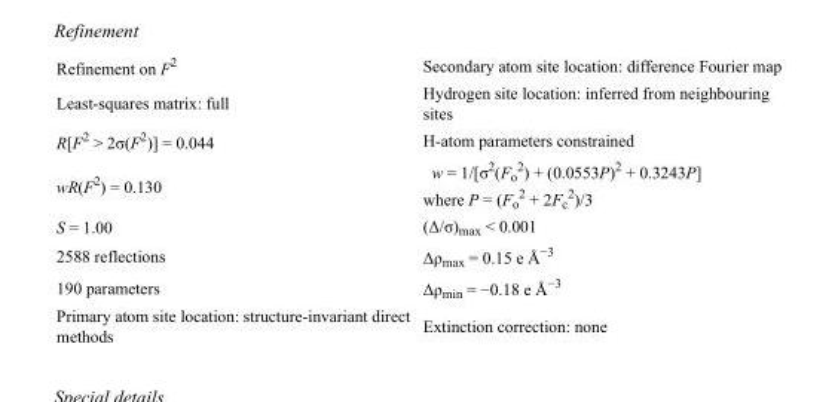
<table><tbody><tr><td>Refinement on F<sup>2</sup></td><td>Secondary atom site location: difference Fourier map</td></tr><tr><td>Least-squares matrix: full</td><td>Hydrogen site location: inferred from neighbouring sites</td></tr><tr><td>R[F<sup>2</sup> &gt; 2σ(F<sup>2</sup>)] = 0.044</td><td>H-atom parameters constrained</td></tr><tr><td>wR(F<sup>2</sup>) = 0.130</td><td>w = 1/[σ<sup>2</sup>(F<sub>o</sub> <sup>2</sup>) + (0.0553P)<sup>2</sup> + 0.3243P] where P = (F<sub>o</sub> <sup>2</sup> + 2F<sub>c</sub> <sup>2</sup>)/3</td></tr><tr><td>S = 1.00</td><td>(Δ/σ)<sub>max</sub> &lt; 0.001</td></tr><tr><td>2588 reflections</td><td>Δρ<sub>max</sub> = 0.15 e Å<sup>−3</sup></td></tr><tr><td>190 parameters</td><td>Δρ<sub>min</sub> = −0.18 e Å<sup>−3</sup></td></tr><tr><td>Primary atom site location: structure-invariant direct methods</td><td>Extinction correction: none</td></tr></tbody></table>